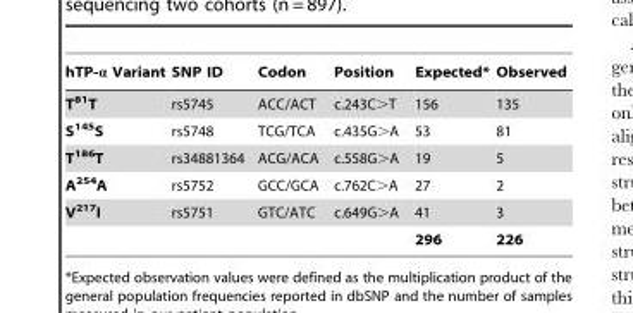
<table><thead><tr><td>hTP-α Variant</td><td>SNP ID</td><td>Codon</td><td>Position</td><td>Expected*</td><td>Observed</td></tr></thead><tbody><tr><td>T<sup>81</sup>T</td><td>rs5745</td><td>ACC/ACT</td><td>c.243C&gt;T</td><td>156</td><td>135</td></tr><tr><td>S<sup>145</sup>S</td><td>rs5748</td><td>TCG/TCA</td><td>c.435G&gt;A</td><td>53</td><td>81</td></tr><tr><td>T<sup>186</sup>T</td><td>rs34881364</td><td>ACG/ACA</td><td>c.558G&gt;A</td><td>19</td><td>5</td></tr><tr><td>A<sup>254</sup>A</td><td>rs5752</td><td>GCC/GCA</td><td>c.762C&gt;A</td><td>27</td><td>2</td></tr><tr><td rowspan="2">V<sup>217</sup>I</td><td>rs5751</td><td>GTC/ATC</td><td>c.649G&gt;A</td><td>41</td><td>3</td></tr><tr><td></td><td></td><td></td><td>296</td><td>226</td></tr></tbody></table>